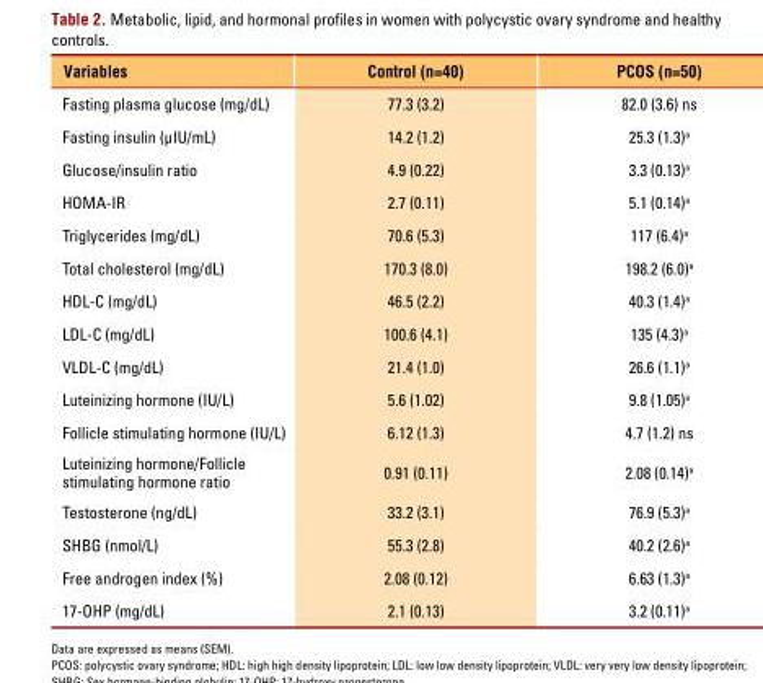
<table><thead><tr><td>Variables</td><td>Control (n=40)</td><td>PCOS (n=50)</td></tr></thead><tbody><tr><td>Fasting plasma glucose (mg/dL)</td><td>77.3 (3.2)</td><td>82.0 (3.6) ns</td></tr><tr><td>Fasting insulin (μIU/mL)</td><td>14.2 (1.2)</td><td>25.3 (1.3)<sup>a</sup></td></tr><tr><td>Glucose/insulin ratio</td><td>4.9 (0.22)</td><td>3.3 (0.13)<sup>a</sup></td></tr><tr><td>HOMA-IR</td><td>2.7 (0.11)</td><td>5.1 (0.14)<sup>a</sup></td></tr><tr><td>Triglycerides (mg/dL)</td><td>70.6 (5.3)</td><td>117 (6.4)<sup>a</sup></td></tr><tr><td>Total cholesterol (mg/dL)</td><td>170.3 (8.0)</td><td>198.2 (6.0)<sup>a</sup></td></tr><tr><td>HDL-C (mg/dL)</td><td>46.5 (2.2)</td><td>40.3 (1.4)<sup>a</sup></td></tr><tr><td>LDL-C (mg/dL)</td><td>100.6 (4.1)</td><td>135 (4.3)<sup>a</sup></td></tr><tr><td>VLDL-C (mg/dL)</td><td>21.4 (1.0)</td><td>26.6 (1.1)<sup>a</sup></td></tr><tr><td>Luteinizing hormone (IU/L)</td><td>5.6 (1.02)</td><td>9.8 (1.05)<sup>a</sup></td></tr><tr><td>Follicle stimulating hormone (IU/L)</td><td>6.12 (1.3)</td><td>4.7 (1.2) ns</td></tr><tr><td>Luteinizing hormone/Follicle stimulating hormone ratio</td><td>0.91 (0.11)</td><td>2.08 (0.14)<sup>a</sup></td></tr><tr><td>Testosterone (ng/dL)</td><td>33.2 (3.1)</td><td>76.9 (5.3)<sup>a</sup></td></tr><tr><td>SHBG (nmol/L)</td><td>55.3 (2.8)</td><td>40.2 (2.6)<sup>a</sup></td></tr><tr><td>Free androgen index (%)</td><td>2.08 (0.12)</td><td>6.63 (1.3)<sup>a</sup></td></tr><tr><td>17-OHP (mg/dL)</td><td>2.1 (0.13)</td><td>3.2 (0.11)<sup>a</sup></td></tr></tbody></table>